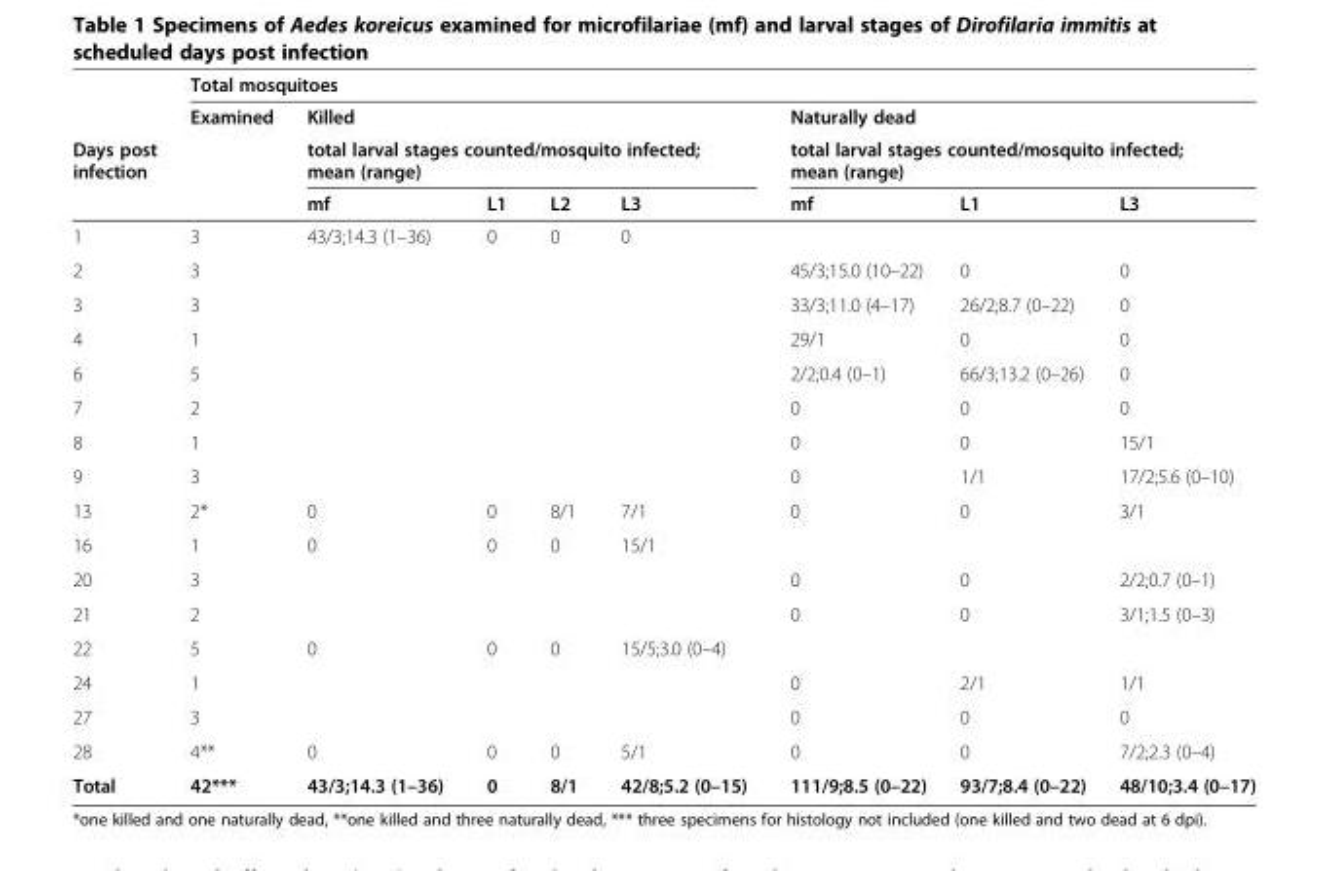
<table><thead><tr><td rowspan="4">Days post infection</td><td colspan="8">Total mosquitoes</td></tr><tr><td rowspan="3">Examined</td><td rowspan="2" colspan="4">Killed total larval stages counted/mosquito infected; mean (range)</td><td rowspan="2" colspan="3">Naturally dead total larval stages counted/mosquito infected; mean (range)</td></tr><tr></tr><tr><td>mf</td><td>L1</td><td>L2</td><td>L3</td><td>mf</td><td>L1</td><td>L3</td></tr></thead><tbody><tr><td>1</td><td>3</td><td>43/3;14.3 (1–36)</td><td>0</td><td>0</td><td>0</td><td></td><td></td><td></td></tr><tr><td>2</td><td>3</td><td></td><td></td><td></td><td></td><td>45/3;15.0 (10–22)</td><td>0</td><td>0</td></tr><tr><td>3</td><td>3</td><td></td><td></td><td></td><td></td><td>33/3;11.0 (4–17)</td><td>26/2;8.7 (0–22)</td><td>0</td></tr><tr><td>4</td><td>1</td><td></td><td></td><td></td><td></td><td>29/1</td><td>0</td><td>0</td></tr><tr><td>6</td><td>5</td><td></td><td></td><td></td><td></td><td>2/2;0.4 (0–1)</td><td>66/3;13.2 (0–26)</td><td>0</td></tr><tr><td>7</td><td>2</td><td></td><td></td><td></td><td></td><td>0</td><td>0</td><td>0</td></tr><tr><td>8</td><td>1</td><td></td><td></td><td></td><td></td><td>0</td><td>0</td><td>15/1</td></tr><tr><td>9</td><td>3</td><td></td><td></td><td></td><td></td><td>0</td><td>1/1</td><td>17/2;5.6 (0–10)</td></tr><tr><td>13</td><td>2*</td><td>0</td><td>0</td><td>8/1</td><td>7/1</td><td>0</td><td>0</td><td>3/1</td></tr><tr><td>16</td><td>1</td><td>0</td><td>0</td><td>0</td><td>15/1</td><td></td><td></td><td></td></tr><tr><td>20</td><td>3</td><td></td><td></td><td></td><td></td><td>0</td><td>0</td><td>2/2;0.7 (0–1)</td></tr><tr><td>21</td><td>2</td><td></td><td></td><td></td><td></td><td>0</td><td>0</td><td>3/1;1.5 (0–3)</td></tr><tr><td>22</td><td>5</td><td>0</td><td>0</td><td>0</td><td>15/5;3.0 (0–4)</td><td></td><td></td><td></td></tr><tr><td>24</td><td>1</td><td></td><td></td><td></td><td></td><td>0</td><td>2/1</td><td>1/1</td></tr><tr><td>27</td><td>3</td><td></td><td></td><td></td><td></td><td>0</td><td>0</td><td>0</td></tr><tr><td>28</td><td>4**</td><td>0</td><td>0</td><td>0</td><td>5/1</td><td>0</td><td>0</td><td>7/2;2.3 (0–4)</td></tr><tr><td>Total</td><td>42***</td><td>43/3;14.3 (1–36)</td><td>0</td><td>8/1</td><td>42/8;5.2 (0–15)</td><td>111/9;8.5 (0–22)</td><td>93/7;8.4 (0–22)</td><td>48/10;3.4 (0–17)</td></tr></tbody></table>